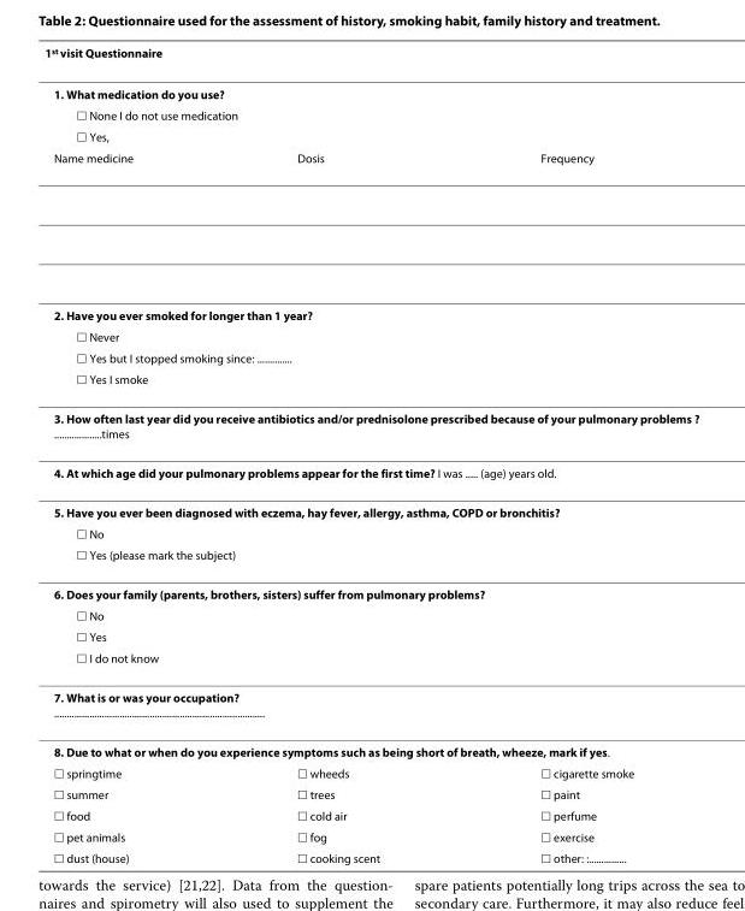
<table><thead><tr><td colspan="3">1st visit Questionnaire</td></tr></thead><tbody><tr><td colspan="3">1. What medication do you use?</td></tr><tr><td colspan="3">□ None I do not use medication</td></tr><tr><td colspan="3">□ Yes,</td></tr><tr><td>Name medicine</td><td>Dosis</td><td>Frequency</td></tr><tr><td colspan="3">2. Have you ever smoked for longer than 1 year?</td></tr><tr><td colspan="3">□ Never</td></tr><tr><td colspan="3">□ Yes but I stopped smoking since: ..............</td></tr><tr><td colspan="3">□ Yes I smoke</td></tr><tr><td colspan="3">3. How often last year did you receive antibiotics and/or prednisolone prescribed because of your pulmonary problems ? ...................times</td></tr><tr><td colspan="3">4. At which age did your pulmonary problems appear for the first time? I was ..... (age) years old.</td></tr><tr><td colspan="3">5. Have you ever been diagnosed with eczema, hay fever, allergy, asthma, COPD or bronchitis?</td></tr><tr><td colspan="3">□ No</td></tr><tr><td colspan="3">□ Yes (please mark the subject)</td></tr><tr><td colspan="3">6. Does your family (parents, brothers, sisters) suffer from pulmonary problems?</td></tr><tr><td colspan="3">□ No</td></tr><tr><td colspan="3">□ Yes</td></tr><tr><td colspan="3">□ I do not know</td></tr><tr><td colspan="3">7. What is or was your occupation? ....................................................................................</td></tr><tr><td colspan="3">8. Due to what or when do you experience symptoms such as being short of breath, wheeze, mark if yes.</td></tr><tr><td>□ springtime</td><td>□ wheeds</td><td>□ cigarette smoke</td></tr><tr><td>□ summer</td><td>□ trees</td><td>□ paint</td></tr><tr><td>□ food</td><td>□ cold air</td><td>□ perfume</td></tr><tr><td>□ pet animals</td><td>□ fog</td><td>□ exercise</td></tr><tr><td>□ dust (house)</td><td>□ cooking scent</td><td>□ other: :...............</td></tr></tbody></table>